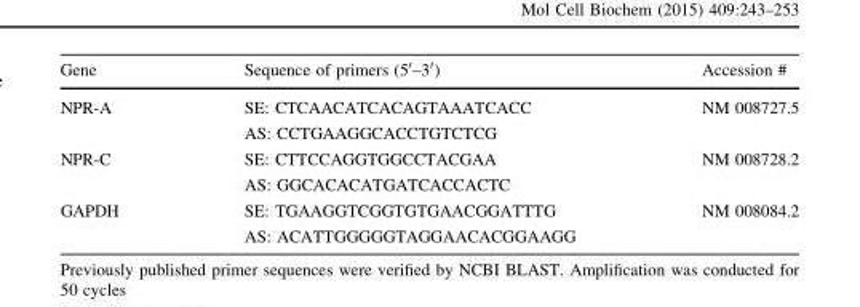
<table><thead><tr><td>Gene</td><td>Sequence of primers (5′–3′)</td><td>Accession #</td></tr></thead><tbody><tr><td>NPR-A</td><td>SE: CTCAACATCACAGTAAATCACC AS: CCTGAAGGCACCTGTCTCG</td><td>NM 008727.5</td></tr><tr><td>NPR-C</td><td>SE: CTTCCAGGTGGCCTACGAA AS: GGCACACATGATCACCACTC</td><td>NM 008728.2</td></tr><tr><td>GAPDH</td><td>SE: TGAAGGTCGGTGTGAACGGATTTG AS: ACATTGGGGGTAGGAACACGGAAGG</td><td>NM 008084.2</td></tr></tbody></table>